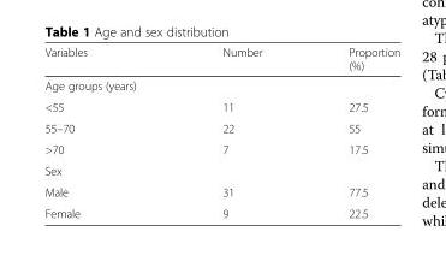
<table><thead><tr><td>Variables</td><td>Number</td><td>Proportion (%)</td></tr></thead><tbody><tr><td colspan="3">Age groups (years)</td></tr><tr><td>&lt;55</td><td>11</td><td>27.5</td></tr><tr><td>55–70</td><td>22</td><td>55</td></tr><tr><td>&gt;70</td><td>7</td><td>17.5</td></tr><tr><td colspan="3">Sex</td></tr><tr><td>Male</td><td>31</td><td>77.5</td></tr><tr><td>Female</td><td>9</td><td>22.5</td></tr></tbody></table>